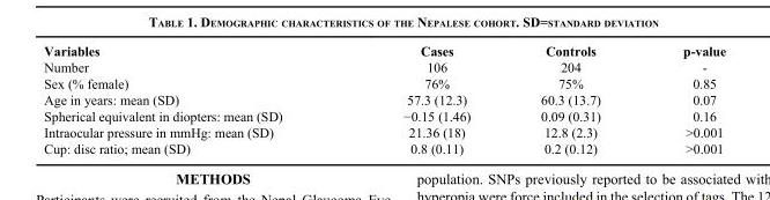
<table><thead><tr><td>Variables</td><td>Cases</td><td>Controls</td><td>p-value</td></tr></thead><tbody><tr><td>Number</td><td>106</td><td>204</td><td>-</td></tr><tr><td>Sex (% female)</td><td>76%</td><td>75%</td><td>0.85</td></tr><tr><td>Age in years: mean (SD)</td><td>57.3 (12.3)</td><td>60.3 (13.7)</td><td>0.07</td></tr><tr><td>Spherical equivalent in diopters: mean (SD)</td><td>−0.15 (1.46)</td><td>0.09 (0.31)</td><td>0.16</td></tr><tr><td>Intraocular pressure in mmHg: mean (SD)</td><td>21.36 (18)</td><td>12.8 (2.3)</td><td>&gt;0.001</td></tr><tr><td>Cup: disc ratio; mean (SD)</td><td>0.8 (0.11)</td><td>0.2 (0.12)</td><td>&gt;0.001</td></tr></tbody></table>